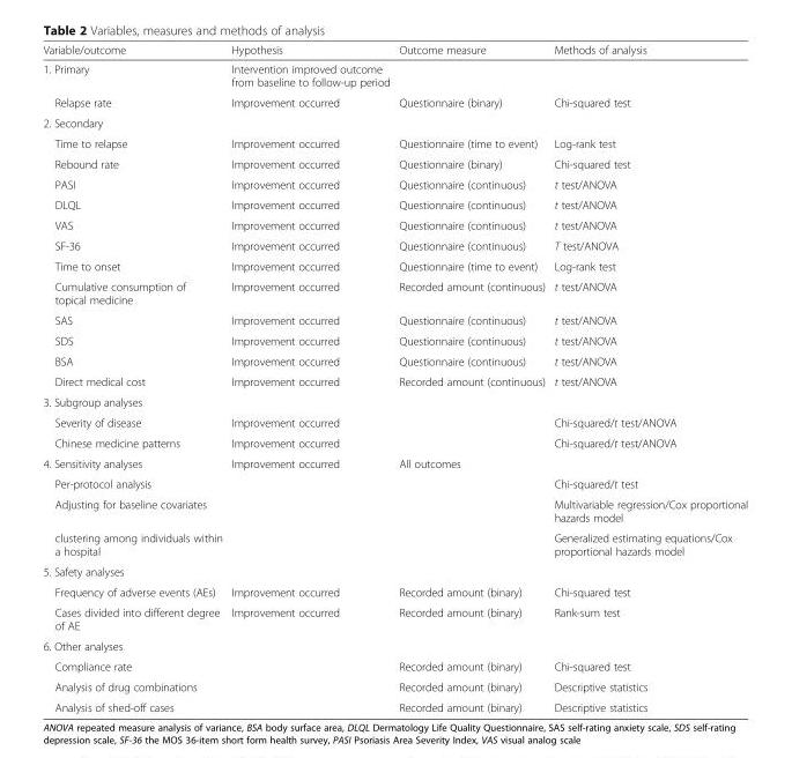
<table><thead><tr><td>Variable/outcome</td><td>Hypothesis</td><td>Outcome measure</td><td>Methods of analysis</td></tr></thead><tbody><tr><td>1. Primary</td><td>Intervention improved outcome from baseline to follow-up period</td><td></td><td></td></tr><tr><td>Relapse rate</td><td>Improvement occurred</td><td>Questionnaire (binary)</td><td>Chi-squared test</td></tr><tr><td colspan="4">2. Secondary</td></tr><tr><td>Time to relapse</td><td>Improvement occurred</td><td>Questionnaire (time to event)</td><td>Log-rank test</td></tr><tr><td>Rebound rate</td><td>Improvement occurred</td><td>Questionnaire (binary)</td><td>Chi-squared test</td></tr><tr><td>PASI</td><td>Improvement occurred</td><td>Questionnaire (continuous)</td><td>t test/ANOVA</td></tr><tr><td>DLQL</td><td>Improvement occurred</td><td>Questionnaire (continuous)</td><td>t test/ANOVA</td></tr><tr><td>VAS</td><td>Improvement occurred</td><td>Questionnaire (continuous)</td><td>t test/ANOVA</td></tr><tr><td>SF-36</td><td>Improvement occurred</td><td>Questionnaire (continuous)</td><td>T test/ANOVA</td></tr><tr><td>Time to onset</td><td>Improvement occurred</td><td>Questionnaire (time to event)</td><td>Log-rank test</td></tr><tr><td>Cumulative consumption of topical medicine</td><td>Improvement occurred</td><td>Recorded amount (continuous)</td><td>t test/ANOVA</td></tr><tr><td>SAS</td><td>Improvement occurred</td><td>Questionnaire (continuous)</td><td>t test/ANOVA</td></tr><tr><td>SDS</td><td>Improvement occurred</td><td>Questionnaire (continuous)</td><td>t test/ANOVA</td></tr><tr><td>BSA</td><td>Improvement occurred</td><td>Questionnaire (continuous)</td><td>t test/ANOVA</td></tr><tr><td>Direct medical cost</td><td>Improvement occurred</td><td>Recorded amount (continuous)</td><td>t test/ANOVA</td></tr><tr><td colspan="4">3. Subgroup analyses</td></tr><tr><td>Severity of disease</td><td>Improvement occurred</td><td></td><td>Chi-squared/t test/ANOVA</td></tr><tr><td>Chinese medicine patterns</td><td>Improvement occurred</td><td></td><td>Chi-squared/t test/ANOVA</td></tr><tr><td>4. Sensitivity analyses</td><td>Improvement occurred</td><td>All outcomes</td><td></td></tr><tr><td>Per-protocol analysis</td><td></td><td></td><td>Chi-squared/t test</td></tr><tr><td>Adjusting for baseline covariates</td><td></td><td></td><td>Multivariable regression/Cox proportional hazards model</td></tr><tr><td>clustering among individuals within a hospital</td><td></td><td></td><td>Generalized estimating equations/Cox proportional hazards model</td></tr><tr><td colspan="4">5. Safety analyses</td></tr><tr><td>Frequency of adverse events (AEs)</td><td>Improvement occurred</td><td>Recorded amount (binary)</td><td>Chi-squared test</td></tr><tr><td>Cases divided into different degree of AE</td><td>Improvement occurred</td><td>Recorded amount (binary)</td><td>Rank-sum test</td></tr><tr><td colspan="4">6. Other analyses</td></tr><tr><td>Compliance rate</td><td></td><td>Recorded amount (binary)</td><td>Chi-squared test</td></tr><tr><td>Analysis of drug combinations</td><td></td><td>Recorded amount (binary)</td><td>Descriptive statistics</td></tr><tr><td>Analysis of shed-off cases</td><td></td><td>Recorded amount (binary)</td><td>Descriptive statistics</td></tr></tbody></table>